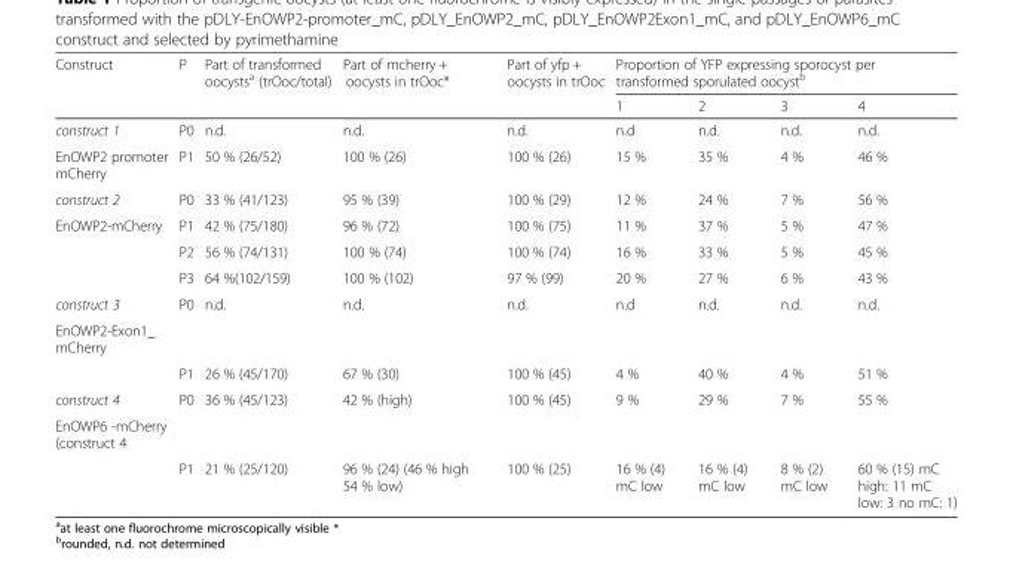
<table><thead><tr><td rowspan="2">Construct</td><td rowspan="2">P</td><td rowspan="2">Part of transformed oocysts<sup>a</sup> (trOoc/total)</td><td rowspan="2">Part of mcherry + oocysts in trOoc*</td><td rowspan="2">Part of yfp + oocysts in trOoc</td><td colspan="4">Proportion of YFP expressing sporocyst per transformed sporulated oocyst<sup>b</sup></td></tr><tr><td>1</td><td>2</td><td>3</td><td>4</td></tr></thead><tbody><tr><td>construct 1</td><td>P0</td><td>n.d.</td><td>n.d.</td><td>n.d.</td><td>n.d</td><td>n.d.</td><td>n.d.</td><td>n.d.</td></tr><tr><td>EnOWP2 promoter mCherry</td><td>P1</td><td>50 % (26/52)</td><td>100 % (26)</td><td>100 % (26)</td><td>15 %</td><td>35 %</td><td>4 %</td><td>46 %</td></tr><tr><td>construct 2</td><td>P0</td><td>33 % (41/123)</td><td>95 % (39)</td><td>100 % (29)</td><td>12 %</td><td>24 %</td><td>7 %</td><td>56 %</td></tr><tr><td rowspan="3">EnOWP2-mCherry</td><td>P1</td><td>42 % (75/180)</td><td>96 % (72)</td><td>100 % (75)</td><td>11 %</td><td>37 %</td><td>5 %</td><td>47 %</td></tr><tr><td>P2</td><td>56 % (74/131)</td><td>100 % (74)</td><td>100 % (74)</td><td>16 %</td><td>33 %</td><td>5 %</td><td>45 %</td></tr><tr><td>P3</td><td>64 %(102/159)</td><td>100 % (102)</td><td>97 % (99)</td><td>20 %</td><td>27 %</td><td>6 %</td><td>43 %</td></tr><tr><td>construct 3</td><td rowspan="2">P0</td><td rowspan="2">n.d.</td><td rowspan="2">n.d.</td><td rowspan="2">n.d.</td><td rowspan="2">n.d</td><td rowspan="2">n.d.</td><td rowspan="2">n.d.</td><td rowspan="2">n.d.</td></tr><tr><td rowspan="2">EnOWP2-Exon1_ mCherry</td></tr><tr><td>P1</td><td>26 % (45/170)</td><td>67 % (30)</td><td>100 % (45)</td><td>4 %</td><td>40 %</td><td>4 %</td><td>51 %</td></tr><tr><td>construct 4</td><td rowspan="2">P0</td><td rowspan="2">36 % (45/123)</td><td rowspan="2">42 % (high)</td><td rowspan="2">100 % (45)</td><td rowspan="2">9 %</td><td rowspan="2">29 %</td><td rowspan="2">7 %</td><td rowspan="2">55 %</td></tr><tr><td rowspan="2">EnOWP6 -mCherry (construct 4</td></tr><tr><td>P1</td><td>21 % (25/120)</td><td>96 % (24) (46 % high 54 % low)</td><td>100 % (25)</td><td>16 % (4) mC low</td><td>16 % (4) mC low</td><td>8 % (2) mC low</td><td>60 % (15) mC high: 11 mC low: 3 no mC: 1)</td></tr></tbody></table>